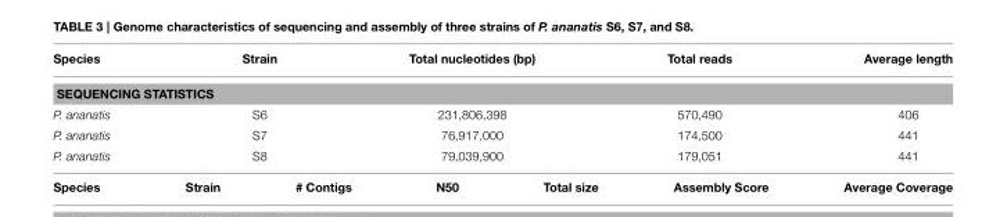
<table><thead><tr><td>Species</td><td>Strain</td><td>Total nucleotides (bp)</td><td>Total reads</td><td>Average length</td></tr></thead><tbody><tr><td colspan="5">SEQUENCING STATISTICS</td></tr><tr><td>P. ananatis</td><td>S6</td><td>231,806,398</td><td>570,490</td><td>406</td></tr><tr><td>P. ananatis</td><td>S7</td><td>76,917,000</td><td>174,500</td><td>441</td></tr><tr><td>P. ananatis</td><td>S8</td><td>79,039,900</td><td>179,051</td><td>441</td></tr></tbody></table>